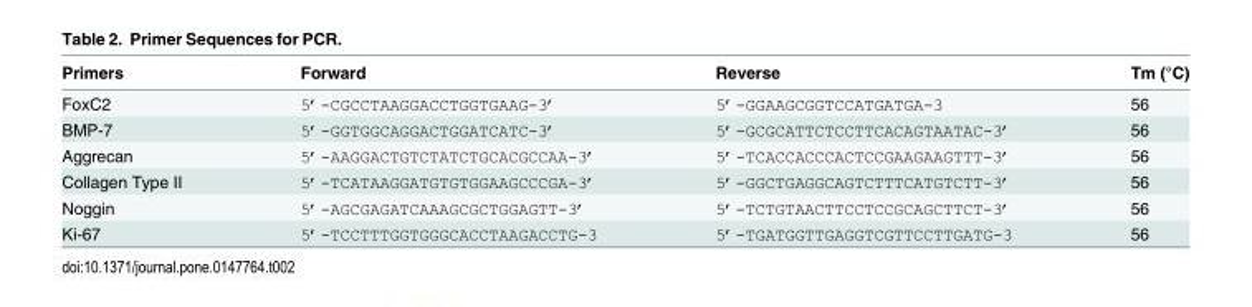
<table><thead><tr><td>Primers</td><td>Forward</td><td>Reverse</td><td>Tm (°C)</td></tr></thead><tbody><tr><td>FoxC2</td><td>5’-CGCCTAAGGACCTGGTGAAG-3’</td><td>5’-GGAAGCGGTCCATGATGA-3</td><td>56</td></tr><tr><td>BMP-7</td><td>5’-GGTGGCAGGACTGGATCATC-3’</td><td>5’-GCGCATTCTCCTTCACAGTAATAC-3’</td><td>56</td></tr><tr><td>Aggrecan</td><td>5’-AAGGACTGTCTATCTGCACGCCAA-3’</td><td>5’-TCACCACCCACTCCGAAGAAGTTT-3’</td><td>56</td></tr><tr><td>Collagen Type II</td><td>5’-TCATAAGGATGTGTGGAAGCCCGA-3’</td><td>5’-GGCTGAGGCAGTCTTTCATGTCTT-3’</td><td>56</td></tr><tr><td>Noggin</td><td>5’-AGCGAGATCAAAGCGCTGGAGTT-3’</td><td>5’-TCTGTAACTTCCTCCGCAGCTTCT-3’</td><td>56</td></tr><tr><td>Ki-67</td><td>5’-TCCTTTGGTGGGCACCTAAGACCTG-3</td><td>5’-TGATGGTTGAGGTCGTTCCTTGATG-3</td><td>56</td></tr></tbody></table>